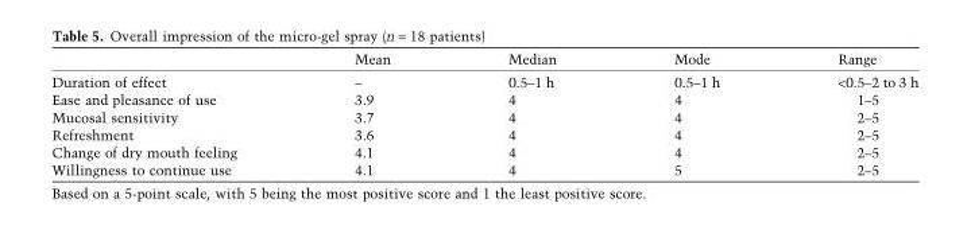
<table><thead><tr><td></td><td>Mean</td><td>Median</td><td>Mode</td><td>Range</td></tr></thead><tbody><tr><td>Duration of effect</td><td>–</td><td>0.5–1 h</td><td>0.5–1 h</td><td>&lt;0.5–2 to 3 h</td></tr><tr><td>Ease and pleasance of use</td><td>3.9</td><td>4</td><td>4</td><td>1–5</td></tr><tr><td>Mucosal sensitivity</td><td>3.7</td><td>4</td><td>4</td><td>2–5</td></tr><tr><td>Refreshment</td><td>3.6</td><td>4</td><td>4</td><td>2–5</td></tr><tr><td>Change of dry mouth feeling</td><td>4.1</td><td>4</td><td>4</td><td>2–5</td></tr><tr><td>Willingness to continue use</td><td>4.1</td><td>4</td><td>5</td><td>2–5</td></tr></tbody></table>